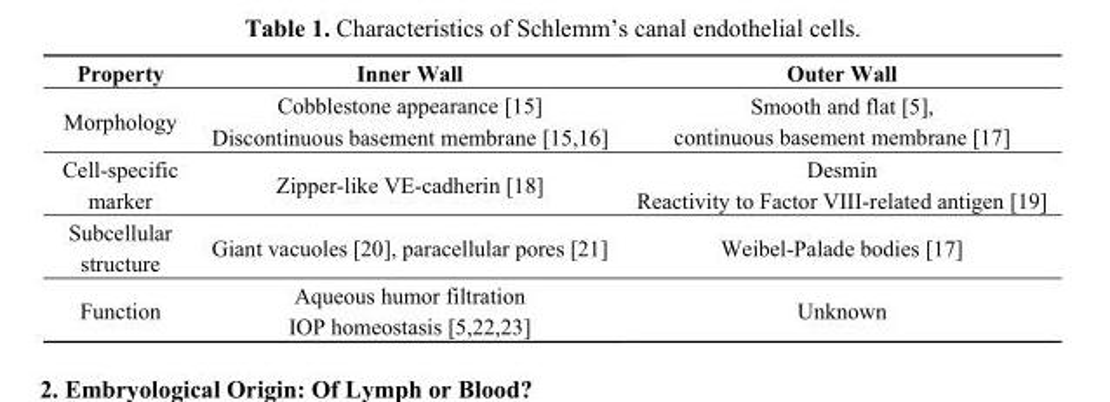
<table><thead><tr><td>Property</td><td>Inner Wall</td><td>Outer Wall</td></tr></thead><tbody><tr><td rowspan="2">Morphology</td><td>Cobblestone appearance [15]</td><td rowspan="2">Smooth and flat [5], continuous basement membrane [17]</td></tr><tr><td>Discontinuous basement membrane [15,16]</td></tr><tr><td rowspan="2">Cell-specific marker</td><td rowspan="2">Zipper-like VE-cadherin [18]</td><td>Desmin</td></tr><tr><td>Reactivity to Factor VIII-related antigen [19]</td></tr><tr><td>Subcellular structure</td><td>Giant vacuoles [20], paracellular pores [21]</td><td>Weibel-Palade bodies [17]</td></tr><tr><td rowspan="2">Function</td><td>Aqueous humor filtration</td><td rowspan="2">Unknown</td></tr><tr><td>IOP homeostasis [5,22,23]</td></tr></tbody></table>